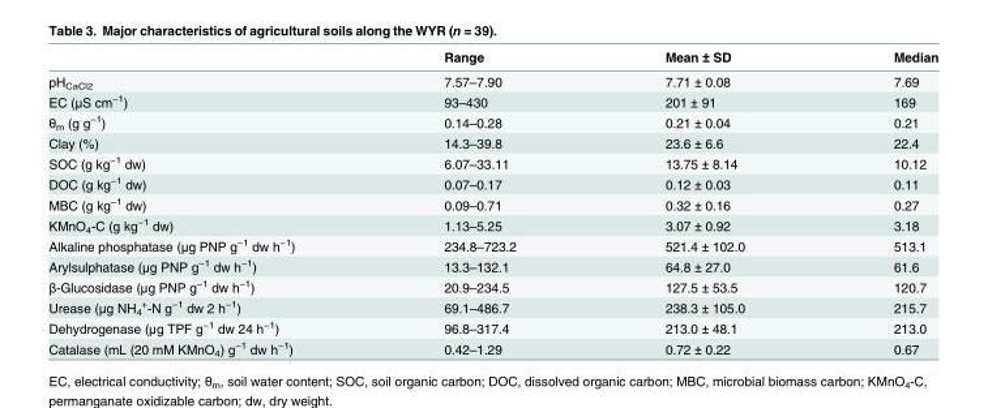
<table><thead><tr><td></td><td>Range</td><td>Mean ± SD</td><td>Median</td></tr></thead><tbody><tr><td>pH<sub>CaCl2</sub></td><td>7.57–7.90</td><td>7.71 ± 0.08</td><td>7.69</td></tr><tr><td>EC (μS cm<sup>−1</sup>)</td><td>93–430</td><td>201 ± 91</td><td>169</td></tr><tr><td>θ<sub>m</sub> (g g<sup>−1</sup>)</td><td>0.14–0.28</td><td>0.21 ± 0.04</td><td>0.21</td></tr><tr><td>Clay (%)</td><td>14.3–39.8</td><td>23.6 ± 6.6</td><td>22.4</td></tr><tr><td>SOC (g kg<sup>−1</sup> dw)</td><td>6.07–33.11</td><td>13.75 ± 8.14</td><td>10.12</td></tr><tr><td>DOC (g kg<sup>−1</sup> dw)</td><td>0.07–0.17</td><td>0.12 ± 0.03</td><td>0.11</td></tr><tr><td>MBC (g kg<sup>−1</sup> dw)</td><td>0.09–0.71</td><td>0.32 ± 0.16</td><td>0.27</td></tr><tr><td>KMnO<sub>4</sub>-C (g kg<sup>−1</sup> dw)</td><td>1.13–5.25</td><td>3.07 ± 0.92</td><td>3.18</td></tr><tr><td>Alkaline phosphatase (μg PNP g<sup>−1</sup> dw h<sup>−1</sup>)</td><td>234.8–723.2</td><td>521.4 ± 102.0</td><td>513.1</td></tr><tr><td>Arylsulphatase (μg PNP g<sup>−1</sup> dw h<sup>−1</sup>)</td><td>13.3–132.1</td><td>64.8 ± 27.0</td><td>61.6</td></tr><tr><td>β-Glucosidase (μg PNP g<sup>−1</sup> dw h<sup>−1</sup>)</td><td>20.9–234.5</td><td>127.5 ± 53.5</td><td>120.7</td></tr><tr><td>Urease (μg NH<sub>4</sub> <sup>+</sup>-N g<sup>−1</sup> dw 2 h<sup>−1</sup>)</td><td>69.1–486.7</td><td>238.3 ± 105.0</td><td>215.7</td></tr><tr><td>Dehydrogenase (μg TPF g<sup>−1</sup> dw 24 h<sup>−1</sup>)</td><td>96.8–317.4</td><td>213.0 ± 48.1</td><td>213.0</td></tr><tr><td>Catalase (mL (20 mM KMnO<sub>4</sub>) g<sup>−1</sup> dw h<sup>−1</sup>)</td><td>0.42–1.29</td><td>0.72 ± 0.22</td><td>0.67</td></tr></tbody></table>